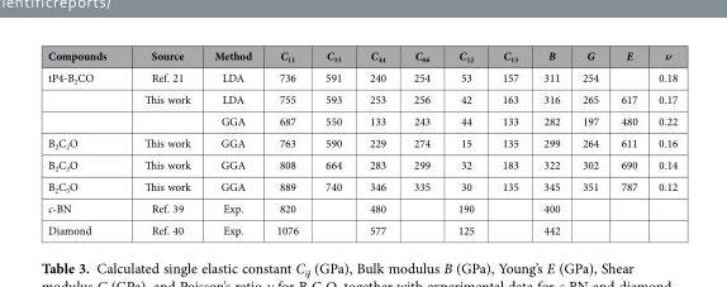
<table><thead><tr><td>Compounds</td><td>Source</td><td>Method</td><td>C<sub>11</sub></td><td>C<sub>33</sub></td><td>C<sub>44</sub></td><td>C<sub>66</sub></td><td>C<sub>12</sub></td><td>C<sub>13</sub></td><td>B</td><td>G</td><td>E</td><td>ν</td></tr></thead><tbody><tr><td rowspan="3">tP4-B<sub>2</sub>CO</td><td>Ref. 21</td><td>LDA</td><td>736</td><td>591</td><td>240</td><td>254</td><td>53</td><td>157</td><td>311</td><td>254</td><td></td><td>0.18</td></tr><tr><td>This work</td><td>LDA</td><td>755</td><td>593</td><td>253</td><td>256</td><td>42</td><td>163</td><td>316</td><td>265</td><td>617</td><td>0.17</td></tr><tr><td></td><td>GGA</td><td>687</td><td>550</td><td>133</td><td>243</td><td>44</td><td>133</td><td>282</td><td>197</td><td>480</td><td>0.22</td></tr><tr><td>B<sub>2</sub>C<sub>2</sub>O</td><td>This work</td><td>GGA</td><td>763</td><td>590</td><td>229</td><td>274</td><td>15</td><td>135</td><td>299</td><td>264</td><td>611</td><td>0.16</td></tr><tr><td>B<sub>2</sub>C<sub>3</sub>O</td><td>This work</td><td>GGA</td><td>808</td><td>664</td><td>283</td><td>299</td><td>32</td><td>183</td><td>322</td><td>302</td><td>690</td><td>0.14</td></tr><tr><td>B<sub>2</sub>C<sub>5</sub>O</td><td>This work</td><td>GGA</td><td>889</td><td>740</td><td>346</td><td>335</td><td>30</td><td>135</td><td>345</td><td>351</td><td>787</td><td>0.12</td></tr><tr><td>c-BN</td><td>Ref. 39</td><td>Exp.</td><td>820</td><td></td><td>480</td><td></td><td>190</td><td></td><td>400</td><td></td><td></td><td></td></tr><tr><td>Diamond</td><td>Ref. 40</td><td>Exp.</td><td>1076</td><td></td><td>577</td><td></td><td>125</td><td></td><td>442</td><td></td><td></td><td></td></tr></tbody></table>